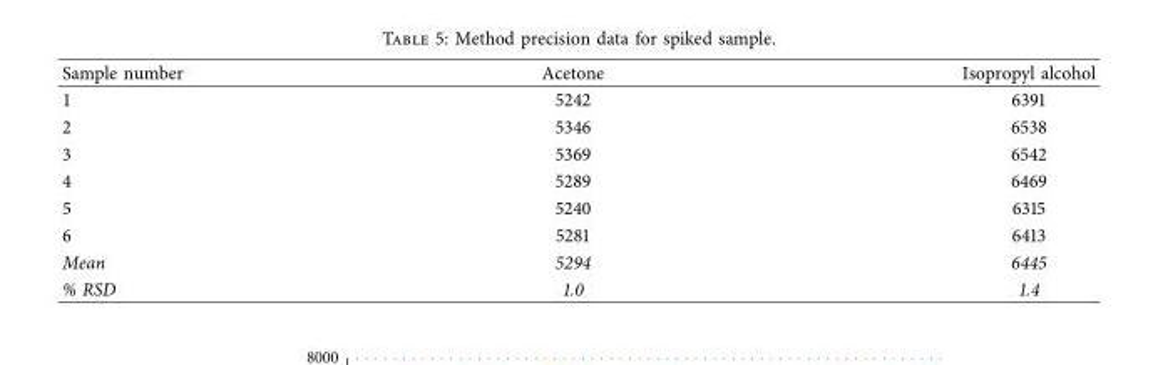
<table><thead><tr><td>Sample number</td><td>Acetone</td><td>Isopropyl alcohol</td></tr></thead><tbody><tr><td>1</td><td>5242</td><td>6391</td></tr><tr><td>2</td><td>5346</td><td>6538</td></tr><tr><td>3</td><td>5369</td><td>6542</td></tr><tr><td>4</td><td>5289</td><td>6469</td></tr><tr><td>5</td><td>5240</td><td>6315</td></tr><tr><td>6</td><td>5281</td><td>6413</td></tr><tr><td>Mean</td><td>5294</td><td>6445</td></tr><tr><td>% RSD</td><td>1.0</td><td>1.4</td></tr></tbody></table>